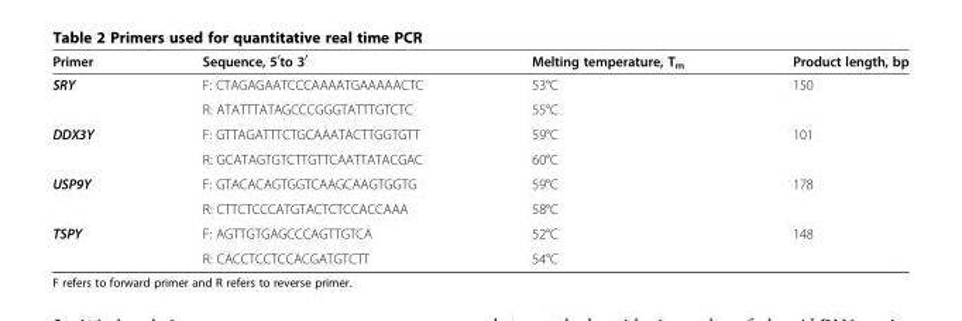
<table><thead><tr><td>Primer</td><td>Sequence, 5<sup>′</sup>to 3<sup>′</sup></td><td>Melting temperature, T<sub>m</sub></td><td>Product length, bp</td></tr></thead><tbody><tr><td rowspan="2">SRY</td><td>F: CTAGAGAATCCCAAAATGAAAAACTC</td><td>53°C</td><td rowspan="2">150</td></tr><tr><td>R: ATATTTATAGCCCGGGTATTTGTCTC</td><td>55°C</td></tr><tr><td rowspan="2">DDX3Y</td><td>F: GTTAGATTTCTGCAAATACTTGGTGTT</td><td>59°C</td><td rowspan="2">101</td></tr><tr><td>R: GCATAGTGTCTTGTTCAATTATACGAC</td><td>60°C</td></tr><tr><td rowspan="2">USP9Y</td><td>F: GTACACAGTGGTCAAGCAAGTGGTG</td><td>59°C</td><td rowspan="2">178</td></tr><tr><td>R: CTTCTCCCATGTACTCTCCACCAAA</td><td>58°C</td></tr><tr><td rowspan="2">TSPY</td><td>F: AGTTGTGAGCCCAGTTGTCA</td><td>52°C</td><td rowspan="2">148</td></tr><tr><td>R: CACCTCCTCCACGATGTCTT</td><td>54°C</td></tr></tbody></table>